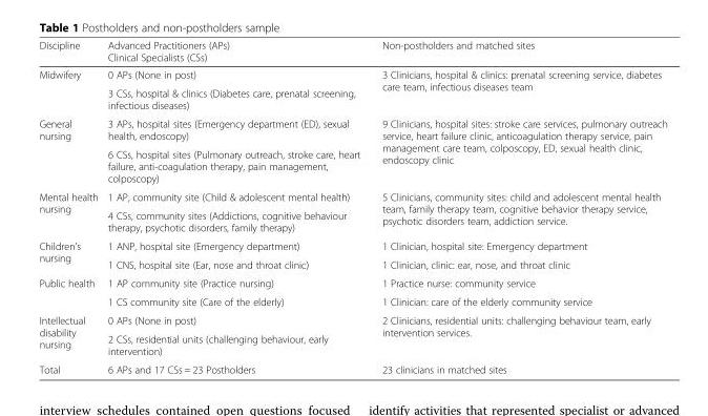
<table><thead><tr><td>Discipline</td><td>Advanced Practitioners (APs) Clinical Specialists (CSs)</td><td>Non-postholders and matched sites</td></tr></thead><tbody><tr><td rowspan="2">Midwifery</td><td>0 APs (None in post)</td><td rowspan="2">3 Clinicians, hospital &amp; clinics: prenatal screening service, diabetes care team, infectious diseases team</td></tr><tr><td>3 CSs, hospital &amp; clinics (Diabetes care, prenatal screening, infectious diseases)</td></tr><tr><td rowspan="2">General nursing</td><td>3 APs, hospital sites (Emergency department (ED), sexual health, endoscopy)</td><td rowspan="2">9 Clinicians, hospital sites: stroke care services, pulmonary outreach service, heart failure clinic, anticoagulation therapy service, pain management care team, colposcopy, ED, sexual health clinic, endoscopy clinic</td></tr><tr><td>6 CSs, hospital sites (Pulmonary outreach, stroke care, heart failure, anti-coagulation therapy, pain management, colposcopy)</td></tr><tr><td rowspan="2">Mental health nursing</td><td>1 AP, community site (Child &amp; adolescent mental health)</td><td rowspan="2">5 Clinicians, community sites: child and adolescent mental health team, family therapy team, cognitive behavior therapy service, psychotic disorders team, addiction service.</td></tr><tr><td>4 CSs, community sites (Addictions, cognitive behaviour therapy, psychotic disorders, family therapy)</td></tr><tr><td rowspan="2">Children’s nursing</td><td>1 ANP, hospital site (Emergency department)</td><td>1 Clinician, hospital site: Emergency department</td></tr><tr><td>1 CNS, hospital site (Ear, nose and throat clinic)</td><td>1 Clinician, clinic: ear, nose, and throat clinic</td></tr><tr><td rowspan="2">Public health</td><td>1 AP community site (Practice nursing)</td><td>1 Practice nurse: community service</td></tr><tr><td>1 CS community site (Care of the elderly)</td><td>1 Clinician: care of the elderly community service</td></tr><tr><td rowspan="2">Intellectual disability nursing</td><td>0 APs (None in post)</td><td rowspan="2">2 Clinicians, residential units: challenging behaviour team, early intervention services.</td></tr><tr><td>2 CSs, residential units (challenging behaviour, early intervention)</td></tr><tr><td>Total</td><td>6 APs and 17 CSs = 23 Postholders</td><td>23 clinicians in matched sites</td></tr></tbody></table>